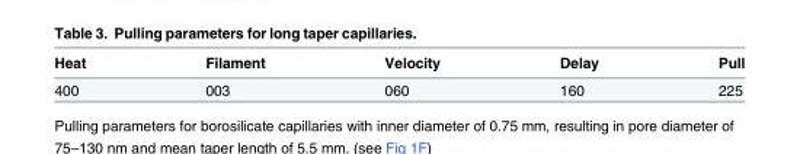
<table><thead><tr><td>Heat</td><td>Filament</td><td>Velocity</td><td>Delay</td><td>Pull</td></tr></thead><tbody><tr><td>400</td><td>003</td><td>060</td><td>160</td><td>225</td></tr></tbody></table>